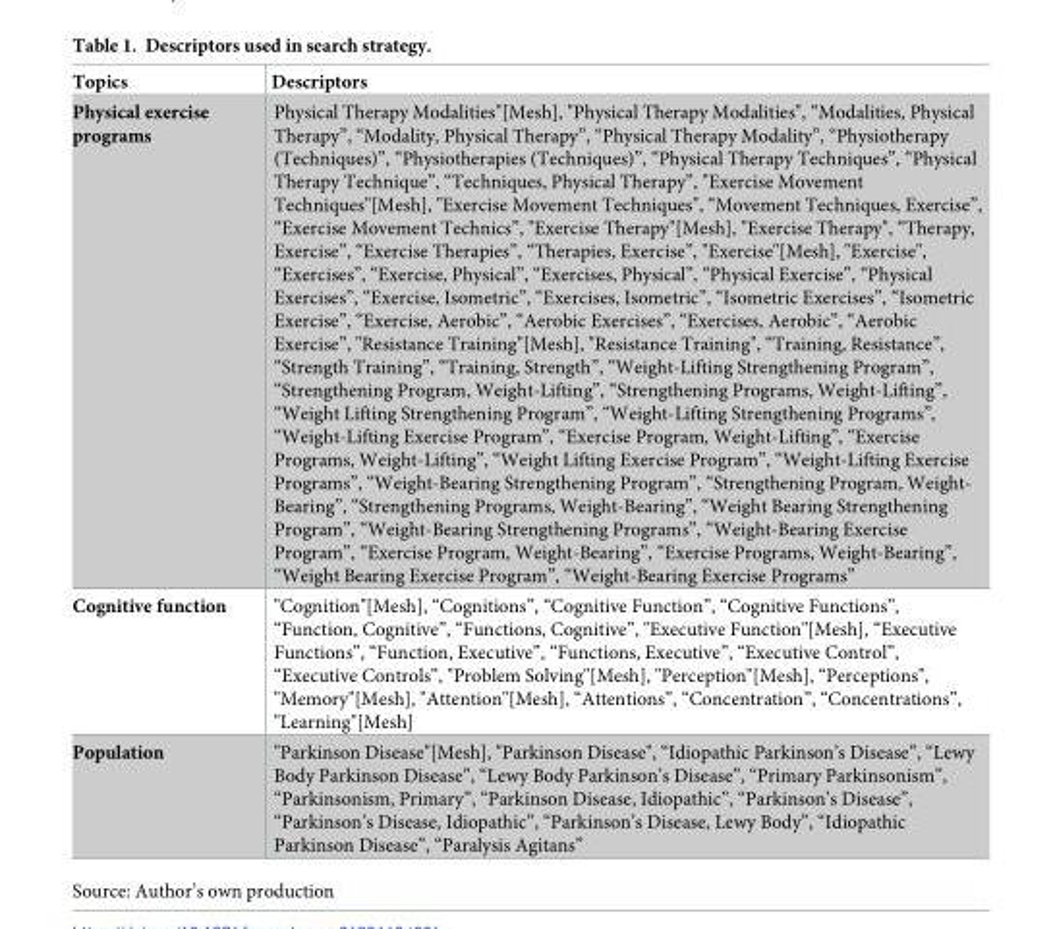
<table><thead><tr><td>Topics</td><td>Descriptors</td></tr></thead><tbody><tr><td>Physical exercise programs</td><td>Physical Therapy Modalities&quot;[Mesh], &quot;Physical Therapy Modalities&quot;, “Modalities, Physical Therapy”, “Modality, Physical Therapy”, “Physical Therapy Modality”, “Physiotherapy (Techniques)”, “Physiotherapies (Techniques)”, “Physical Therapy Techniques”, “Physical Therapy Technique”, “Techniques, Physical Therapy”, &quot;Exercise Movement Techniques&quot;[Mesh], &quot;Exercise Movement Techniques&quot;, “Movement Techniques, Exercise”, “Exercise Movement Technics”, &quot;Exercise Therapy&quot;[Mesh], &quot;Exercise Therapy&quot;, “Therapy, Exercise”, “Exercise Therapies”, “Therapies, Exercise”, &quot;Exercise&quot;[Mesh], &quot;Exercise&quot;, “Exercises”, “Exercise, Physical”, “Exercises, Physical”, “Physical Exercise”, “Physical Exercises”, “Exercise, Isometric”, “Exercises, Isometric”, “Isometric Exercises”, “Isometric Exercise”, “Exercise, Aerobic”, “Aerobic Exercises”, “Exercises, Aerobic”, “Aerobic Exercise”, &quot;Resistance Training&quot;[Mesh], &quot;Resistance Training&quot;, “Training, Resistance”, “Strength Training”, “Training, Strength”, “Weight-Lifting Strengthening Program”, “Strengthening Program, Weight-Lifting”, “Strengthening Programs, Weight-Lifting”, “Weight Lifting Strengthening Program”, “Weight-Lifting Strengthening Programs”, “Weight-Lifting Exercise Program”, “Exercise Program, Weight-Lifting”, “Exercise Programs, Weight-Lifting”, “Weight Lifting Exercise Program”, “Weight-Lifting Exercise Programs”, “Weight-Bearing Strengthening Program”, “Strengthening Program, Weight- Bearing”, “Strengthening Programs, Weight-Bearing”, “Weight Bearing Strengthening Program”, “Weight-Bearing Strengthening Programs”, “Weight-Bearing Exercise Program”, “Exercise Program, Weight-Bearing”, “Exercise Programs, Weight-Bearing”, “Weight Bearing Exercise Program”, “Weight-Bearing Exercise Programs”</td></tr><tr><td>Cognitive function</td><td>&quot;Cognition&quot;[Mesh], “Cognitions”, “Cognitive Function”, “Cognitive Functions”, “Function, Cognitive”, “Functions, Cognitive”, &quot;Executive Function&quot;[Mesh], “Executive Functions”, “Function, Executive”, “Functions, Executive”, “Executive Control”, “Executive Controls”, &quot;Problem Solving&quot;[Mesh], &quot;Perception&quot;[Mesh], “Perceptions&quot;, &quot;Memory&quot;[Mesh], &quot;Attention&quot;[Mesh], “Attentions”, “Concentration”, “Concentrations”, &quot;Learning&quot;[Mesh]</td></tr><tr><td>Population</td><td>&quot;Parkinson Disease&quot;[Mesh], &quot;Parkinson Disease&quot;, “Idiopathic Parkinson’s Disease”, “Lewy Body Parkinson Disease”, “Lewy Body Parkinson’s Disease”, “Primary Parkinsonism”, “Parkinsonism, Primary”, “Parkinson Disease, Idiopathic”, “Parkinson’s Disease”, “Parkinson’s Disease, Idiopathic”, “Parkinson’s Disease, Lewy Body”, “Idiopathic Parkinson Disease”, “Paralysis Agitans”</td></tr></tbody></table>